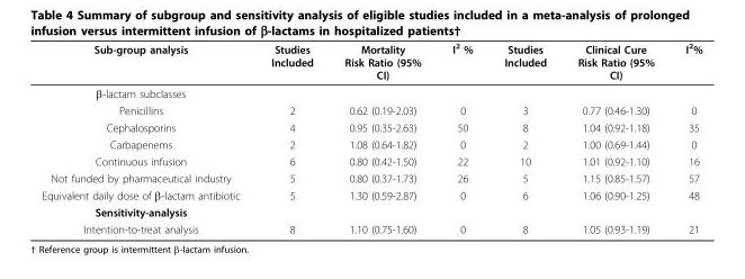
<table><thead><tr><td>Sub-group analysis</td><td>Studies Included</td><td>Mortality Risk Ratio (95% CI)</td><td>I<sup>2</sup> %</td><td>Studies Included</td><td>Clinical Cure Risk Ratio (95% CI)</td><td>I<sup>2</sup>%</td></tr></thead><tbody><tr><td colspan="7">β-lactam subclasses</td></tr><tr><td>Penicillins</td><td>2</td><td>0.62 (0.19-2.03)</td><td>0</td><td>3</td><td>0.77 (0.46-1.30)</td><td>0</td></tr><tr><td>Cephalosporins</td><td>4</td><td>0.95 (0.35-2.63)</td><td>50</td><td>8</td><td>1.04 (0.92-1.18)</td><td>35</td></tr><tr><td>Carbapenems</td><td>2</td><td>1.08 (0.64-1.82)</td><td>0</td><td>2</td><td>1.00 (0.69-1.44)</td><td>0</td></tr><tr><td>Continuous infusion</td><td>6</td><td>0.80 (0.42-1.50)</td><td>22</td><td>10</td><td>1.01 (0.92-1.10)</td><td>16</td></tr><tr><td>Not funded by pharmaceutical industry</td><td>5</td><td>0.80 (0.37-1.73)</td><td>26</td><td>5</td><td>1.15 (0.85-1.57)</td><td>57</td></tr><tr><td>Equivalent daily dose of β-lactam antibiotic</td><td>5</td><td>1.30 (0.59-2.87)</td><td>0</td><td>6</td><td>1.06 (0.90-1.25)</td><td>48</td></tr><tr><td colspan="7">Sensitivity-analysis</td></tr><tr><td>Intention-to-treat analysis</td><td>8</td><td>1.10 (0.75-1.60)</td><td>0</td><td>8</td><td>1.05 (0.93-1.19)</td><td>21</td></tr></tbody></table>